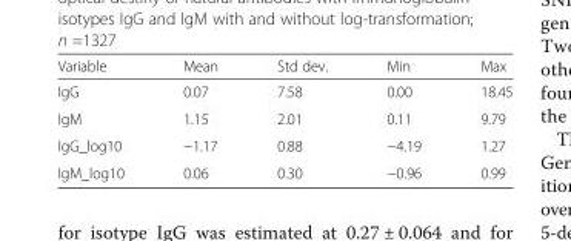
<table><thead><tr><td>Variable</td><td>Mean</td><td>Std dev.</td><td>Min</td><td>Max</td></tr></thead><tbody><tr><td>IgG</td><td>0.07</td><td>7.58</td><td>0.00</td><td>18.45</td></tr><tr><td>IgM</td><td>1.15</td><td>2.01</td><td>0.11</td><td>9.79</td></tr><tr><td>IgG_log10</td><td>−1.17</td><td>0.88</td><td>−4.19</td><td>1.27</td></tr><tr><td>IgM_log10</td><td>0.06</td><td>0.30</td><td>−0.96</td><td>0.99</td></tr></tbody></table>